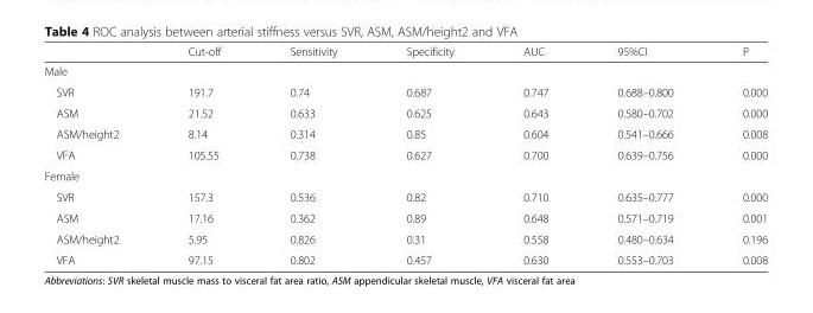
<table><thead><tr><td></td><td>Cut-off</td><td>Sensitivity</td><td>Specificity</td><td>AUC</td><td>95%CI</td><td>P</td></tr></thead><tbody><tr><td colspan="7">Male</td></tr><tr><td>SVR</td><td>191.7</td><td>0.74</td><td>0.687</td><td>0.747</td><td>0.688–0.800</td><td>0.000</td></tr><tr><td>ASM</td><td>21.52</td><td>0.633</td><td>0.625</td><td>0.643</td><td>0.580–0.702</td><td>0.000</td></tr><tr><td>ASM/height2</td><td>8.14</td><td>0.314</td><td>0.85</td><td>0.604</td><td>0.541–0.666</td><td>0.008</td></tr><tr><td>VFA</td><td>105.55</td><td>0.738</td><td>0.627</td><td>0.700</td><td>0.639–0.756</td><td>0.000</td></tr><tr><td colspan="7">Female</td></tr><tr><td>SVR</td><td>157.3</td><td>0.536</td><td>0.82</td><td>0.710</td><td>0.635–0.777</td><td>0.000</td></tr><tr><td>ASM</td><td>17.16</td><td>0.362</td><td>0.89</td><td>0.648</td><td>0.571–0.719</td><td>0.001</td></tr><tr><td>ASM/height2</td><td>5.95</td><td>0.826</td><td>0.31</td><td>0.558</td><td>0.480–0.634</td><td>0.196</td></tr><tr><td>VFA</td><td>97.15</td><td>0.802</td><td>0.457</td><td>0.630</td><td>0.553–0.703</td><td>0.008</td></tr></tbody></table>